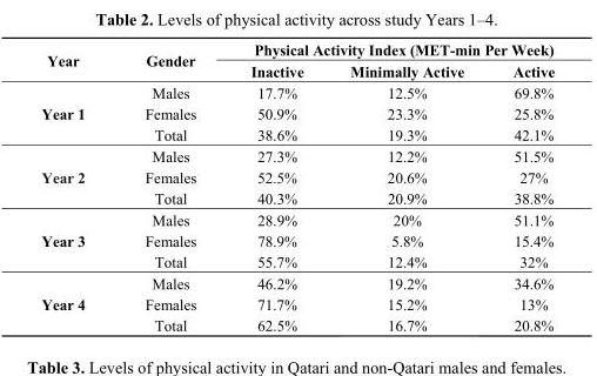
<table><thead><tr><td rowspan="2">Year</td><td rowspan="2">Gender</td><td colspan="3">Physical Activity Index (MET-min Per Week)</td></tr><tr><td>Inactive</td><td>Minimally Active</td><td>Active</td></tr></thead><tbody><tr><td rowspan="3">Year 1</td><td>Males</td><td>17.7%</td><td>12.5%</td><td>69.8%</td></tr><tr><td>Females</td><td>50.9%</td><td>23.3%</td><td>25.8%</td></tr><tr><td>Total</td><td>38.6%</td><td>19.3%</td><td>42.1%</td></tr><tr><td rowspan="3">Year 2</td><td>Males</td><td>27.3%</td><td>12.2%</td><td>51.5%</td></tr><tr><td>Females</td><td>52.5%</td><td>20.6%</td><td>27%</td></tr><tr><td>Total</td><td>40.3%</td><td>20.9%</td><td>38.8%</td></tr><tr><td rowspan="3">Year 3</td><td>Males</td><td>28.9%</td><td>20%</td><td>51.1%</td></tr><tr><td>Females</td><td>78.9%</td><td>5.8%</td><td>15.4%</td></tr><tr><td>Total</td><td>55.7%</td><td>12.4%</td><td>32%</td></tr><tr><td rowspan="3">Year 4</td><td>Males</td><td>46.2%</td><td>19.2%</td><td>34.6%</td></tr><tr><td>Females</td><td>71.7%</td><td>15.2%</td><td>13%</td></tr><tr><td>Total</td><td>62.5%</td><td>16.7%</td><td>20.8%</td></tr></tbody></table>